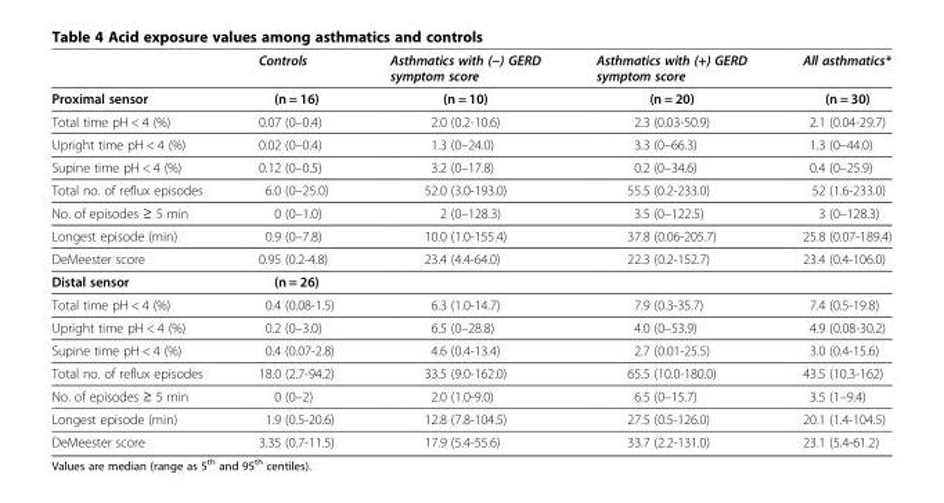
<table><thead><tr><td></td><td>Controls</td><td>Asthmatics with (−) GERD symptom score</td><td>Asthmatics with (+) GERD symptom score</td><td>All asthmatics*</td></tr></thead><tbody><tr><td>Proximal sensor</td><td>(n = 16)</td><td>(n = 10)</td><td>(n = 20)</td><td>(n = 30)</td></tr><tr><td>Total time pH &lt; 4 (%)</td><td>0.07 (0–0.4)</td><td>2.0 (0.2-10.6)</td><td>2.3 (0.03-50.9)</td><td>2.1 (0.04-29.7)</td></tr><tr><td>Upright time pH &lt; 4 (%)</td><td>0.02 (0–0.4)</td><td>1.3 (0–24.0)</td><td>3.3 (0–66.3)</td><td>1.3 (0–44.0)</td></tr><tr><td>Supine time pH &lt; 4 (%)</td><td>0.12 (0–0.5)</td><td>3.2 (0–17.8)</td><td>0.2 (0–34.6)</td><td>0.4 (0–25.9)</td></tr><tr><td>Total no. of reflux episodes</td><td>6.0 (0–25.0)</td><td>52.0 (3.0-193.0)</td><td>55.5 (0.2-233.0)</td><td>52 (1.6-233.0)</td></tr><tr><td>No. of episodes ≥ 5 min</td><td>0 (0–1.0)</td><td>2 (0–128.3)</td><td>3.5 (0–122.5)</td><td>3 (0–128.3)</td></tr><tr><td>Longest episode (min)</td><td>0.9 (0–7.8)</td><td>10.0 (1.0-155.4)</td><td>37.8 (0.06-205.7)</td><td>25.8 (0.07-189.4)</td></tr><tr><td>DeMeester score</td><td>0.95 (0.2-4.8)</td><td>23.4 (4.4-64.0)</td><td>22.3 (0.2-152.7)</td><td>23.4 (0.4-106.0)</td></tr><tr><td>Distal sensor</td><td>(n = 26)</td><td></td><td></td><td></td></tr><tr><td>Total time pH &lt; 4 (%)</td><td>0.4 (0.08-1.5)</td><td>6.3 (1.0-14.7)</td><td>7.9 (0.3-35.7)</td><td>7.4 (0.5-19.8)</td></tr><tr><td>Upright time pH &lt; 4 (%)</td><td>0.2 (0–3.0)</td><td>6.5 (0–28.8)</td><td>4.0 (0–53.9)</td><td>4.9 (0.08-30.2)</td></tr><tr><td>Supine time pH &lt; 4 (%)</td><td>0.4 (0.07-2.8)</td><td>4.6 (0.4-13.4)</td><td>2.7 (0.01-25.5)</td><td>3.0 (0.4-15.6)</td></tr><tr><td>Total no. of reflux episodes</td><td>18.0 (2.7-94.2)</td><td>33.5 (9.0-162.0)</td><td>65.5 (10.0-180.0)</td><td>43.5 (10.3-162)</td></tr><tr><td>No. of episodes ≥ 5 min</td><td>0 (0–2)</td><td>2.0 (1.0-9.0)</td><td>6.5 (0–15.7)</td><td>3.5 (1–9.4)</td></tr><tr><td>Longest episode (min)</td><td>1.9 (0.5-20.6)</td><td>12.8 (7.8-104.5)</td><td>27.5 (0.5-126.0)</td><td>20.1 (1.4-104.5)</td></tr><tr><td>DeMeester score</td><td>3.35 (0.7-11.5)</td><td>17.9 (5.4-55.6)</td><td>33.7 (2.2-131.0)</td><td>23.1 (5.4-61.2)</td></tr></tbody></table>